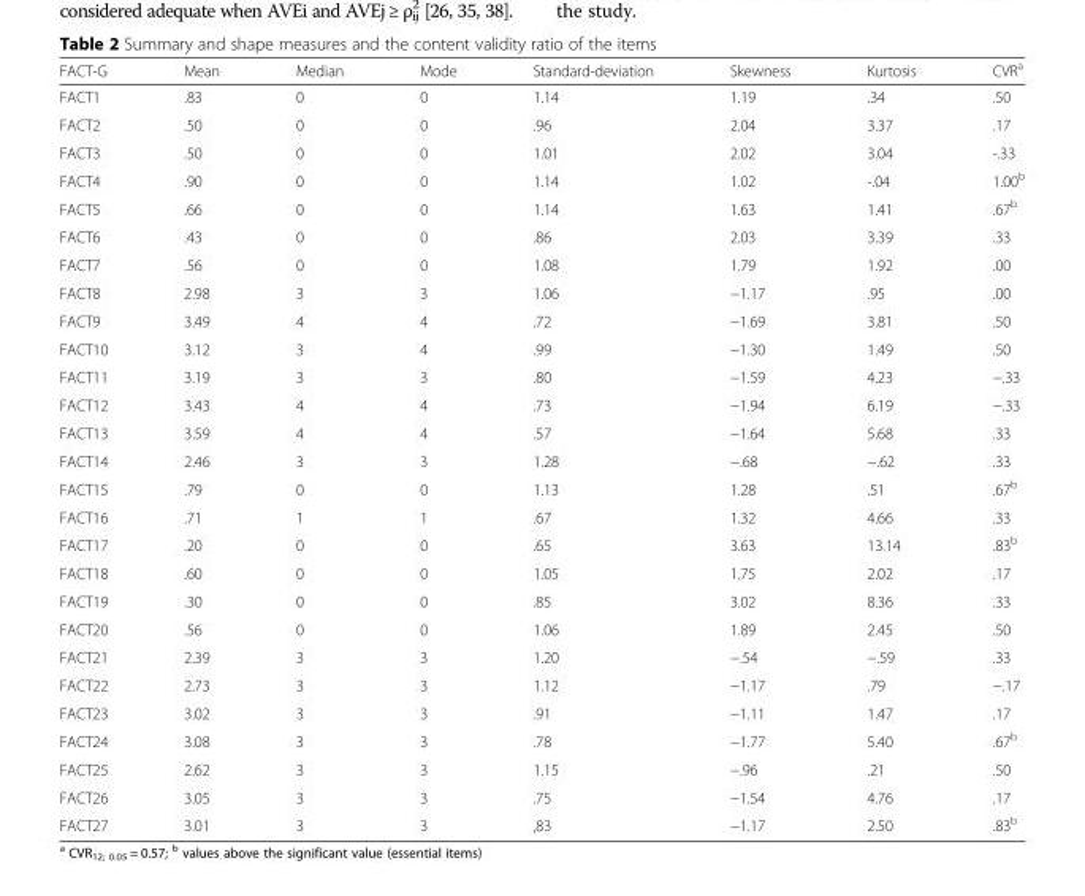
<table><thead><tr><td>FACT-G</td><td>Mean</td><td>Median</td><td>Mode</td><td>Standard-deviation</td><td>Skewness</td><td>Kurtosis</td><td>CVR<sup>a</sup></td></tr></thead><tbody><tr><td>FACT1</td><td>.83</td><td>0</td><td>0</td><td>1.14</td><td>1.19</td><td>.34</td><td>.50</td></tr><tr><td>FACT2</td><td>.50</td><td>0</td><td>0</td><td>.96</td><td>2.04</td><td>3.37</td><td>.17</td></tr><tr><td>FACT3</td><td>.50</td><td>0</td><td>0</td><td>1.01</td><td>2.02</td><td>3.04</td><td>-.33</td></tr><tr><td>FACT4</td><td>.90</td><td>0</td><td>0</td><td>1.14</td><td>1.02</td><td>-.04</td><td>1.00<sup>b</sup></td></tr><tr><td>FACT5</td><td>.66</td><td>0</td><td>0</td><td>1.14</td><td>1.63</td><td>1.41</td><td>.67<sup>b</sup></td></tr><tr><td>FACT6</td><td>.43</td><td>0</td><td>0</td><td>.86</td><td>2.03</td><td>3.39</td><td>.33</td></tr><tr><td>FACT7</td><td>.56</td><td>0</td><td>0</td><td>1.08</td><td>1.79</td><td>1.92</td><td>.00</td></tr><tr><td>FACT8</td><td>2.98</td><td>3</td><td>3</td><td>1.06</td><td>−1.17</td><td>.95</td><td>.00</td></tr><tr><td>FACT9</td><td>3.49</td><td>4</td><td>4</td><td>.72</td><td>−1.69</td><td>3.81</td><td>.50</td></tr><tr><td>FACT10</td><td>3.12</td><td>3</td><td>4</td><td>.99</td><td>−1.30</td><td>1.49</td><td>.50</td></tr><tr><td>FACT11</td><td>3.19</td><td>3</td><td>3</td><td>.80</td><td>−1.59</td><td>4.23</td><td>−.33</td></tr><tr><td>FACT12</td><td>3.43</td><td>4</td><td>4</td><td>.73</td><td>−1.94</td><td>6.19</td><td>−.33</td></tr><tr><td>FACT13</td><td>3.59</td><td>4</td><td>4</td><td>.57</td><td>−1.64</td><td>5.68</td><td>.33</td></tr><tr><td>FACT14</td><td>2.46</td><td>3</td><td>3</td><td>1.28</td><td>−.68</td><td>−.62</td><td>.33</td></tr><tr><td>FACT15</td><td>.79</td><td>0</td><td>0</td><td>1.13</td><td>1.28</td><td>.51</td><td>.67<sup>b</sup></td></tr><tr><td>FACT16</td><td>.71</td><td>1</td><td>1</td><td>.67</td><td>1.32</td><td>4.66</td><td>.33</td></tr><tr><td>FACT17</td><td>.20</td><td>0</td><td>0</td><td>.65</td><td>3.63</td><td>13.14</td><td>.83<sup>b</sup></td></tr><tr><td>FACT18</td><td>.60</td><td>0</td><td>0</td><td>1.05</td><td>1.75</td><td>2.02</td><td>.17</td></tr><tr><td>FACT19</td><td>.30</td><td>0</td><td>0</td><td>.85</td><td>3.02</td><td>8.36</td><td>.33</td></tr><tr><td>FACT20</td><td>.56</td><td>0</td><td>0</td><td>1.06</td><td>1.89</td><td>2.45</td><td>.50</td></tr><tr><td>FACT21</td><td>2.39</td><td>3</td><td>3</td><td>1.20</td><td>−.54</td><td>−.59</td><td>.33</td></tr><tr><td>FACT22</td><td>2.73</td><td>3</td><td>3</td><td>1.12</td><td>−1.17</td><td>.79</td><td>−.17</td></tr><tr><td>FACT23</td><td>3.02</td><td>3</td><td>3</td><td>.91</td><td>−1.11</td><td>1.47</td><td>.17</td></tr><tr><td>FACT24</td><td>3.08</td><td>3</td><td>3</td><td>.78</td><td>−1.77</td><td>5.40</td><td>.67<sup>b</sup></td></tr><tr><td>FACT25</td><td>2.62</td><td>3</td><td>3</td><td>1.15</td><td>−.96</td><td>.21</td><td>.50</td></tr><tr><td>FACT26</td><td>3.05</td><td>3</td><td>3</td><td>.75</td><td>−1.54</td><td>4.76</td><td>.17</td></tr><tr><td>FACT27</td><td>3.01</td><td>3</td><td>3</td><td>,83</td><td>−1.17</td><td>2.50</td><td>.83<sup>b</sup></td></tr></tbody></table>